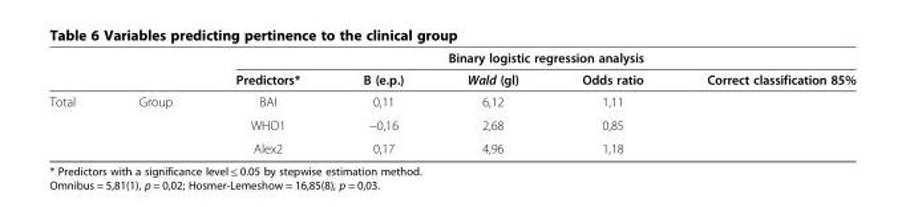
<table><thead><tr><td rowspan="2"></td><td rowspan="2"></td><td colspan="5">Binary logistic regression analysis</td></tr><tr><td>Predictors*</td><td>B (e.p.)</td><td>Wald (gl)</td><td>Odds ratio</td><td>Correct classification 85%</td></tr></thead><tbody><tr><td rowspan="3">Total</td><td>Group</td><td>BAI</td><td>0,11</td><td>6,12</td><td>1,11</td><td></td></tr><tr><td></td><td>WHO1</td><td>−0,16</td><td>2,68</td><td>0,85</td><td></td></tr><tr><td></td><td>Alex2</td><td>0,17</td><td>4,96</td><td>1,18</td><td></td></tr></tbody></table>